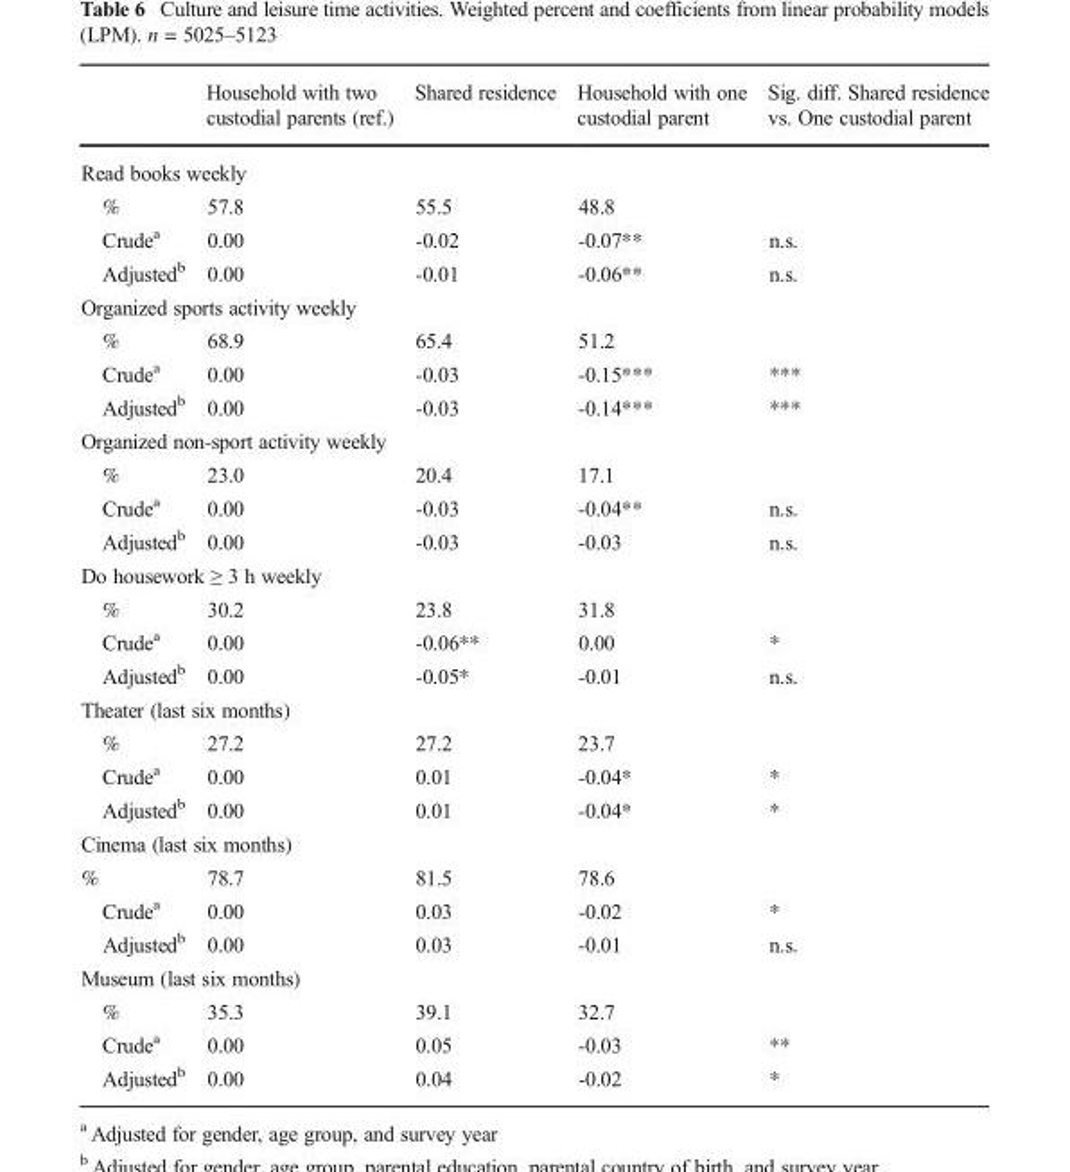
<table><thead><tr><td></td><td>Household with two custodial parents (ref.)</td><td>Shared residence</td><td>Household with one custodial parent</td><td>Sig. diff. Shared residence vs. One custodial parent</td></tr></thead><tbody><tr><td colspan="5">Read books weekly</td></tr><tr><td>%</td><td>57.8</td><td>55.5</td><td>48.8</td><td></td></tr><tr><td>Crude<sup>a</sup></td><td>0.00</td><td>-0.02</td><td>-0.07**</td><td>n.s.</td></tr><tr><td>Adjusted<sup>b</sup></td><td>0.00</td><td>-0.01</td><td>-0.06**</td><td>n.s.</td></tr><tr><td colspan="5">Organized sports activity weekly</td></tr><tr><td>%</td><td>68.9</td><td>65.4</td><td>51.2</td><td></td></tr><tr><td>Crude<sup>a</sup></td><td>0.00</td><td>-0.03</td><td>-0.15***</td><td>***</td></tr><tr><td>Adjusted<sup>b</sup></td><td>0.00</td><td>-0.03</td><td>-0.14***</td><td>***</td></tr><tr><td colspan="5">Organized non-sport activity weekly</td></tr><tr><td>%</td><td>23.0</td><td>20.4</td><td>17.1</td><td></td></tr><tr><td>Crude<sup>a</sup></td><td>0.00</td><td>-0.03</td><td>-0.04**</td><td>n.s.</td></tr><tr><td>Adjusted<sup>b</sup></td><td>0.00</td><td>-0.03</td><td>-0.03</td><td>n.s.</td></tr><tr><td colspan="5">Do housework ≥ 3 h weekly</td></tr><tr><td>%</td><td>30.2</td><td>23.8</td><td>31.8</td><td></td></tr><tr><td>Crude<sup>a</sup></td><td>0.00</td><td>-0.06**</td><td>0.00</td><td>*</td></tr><tr><td>Adjusted<sup>b</sup></td><td>0.00</td><td>-0.05*</td><td>-0.01</td><td>n.s.</td></tr><tr><td colspan="5">Theater (last six months)</td></tr><tr><td>%</td><td>27.2</td><td>27.2</td><td>23.7</td><td></td></tr><tr><td>Crude<sup>a</sup></td><td>0.00</td><td>0.01</td><td>-0.04*</td><td>*</td></tr><tr><td>Adjusted<sup>b</sup></td><td>0.00</td><td>0.01</td><td>-0.04*</td><td>*</td></tr><tr><td colspan="5">Cinema (last six months)</td></tr><tr><td>%</td><td>78.7</td><td>81.5</td><td>78.6</td><td></td></tr><tr><td>Crude<sup>a</sup></td><td>0.00</td><td>0.03</td><td>-0.02</td><td>*</td></tr><tr><td>Adjusted<sup>b</sup></td><td>0.00</td><td>0.03</td><td>-0.01</td><td>n.s.</td></tr><tr><td colspan="5">Museum (last six months)</td></tr><tr><td>%</td><td>35.3</td><td>39.1</td><td>32.7</td><td></td></tr><tr><td>Crude<sup>a</sup></td><td>0.00</td><td>0.05</td><td>-0.03</td><td>**</td></tr><tr><td>Adjusted<sup>b</sup></td><td>0.00</td><td>0.04</td><td>-0.02</td><td>*</td></tr></tbody></table>